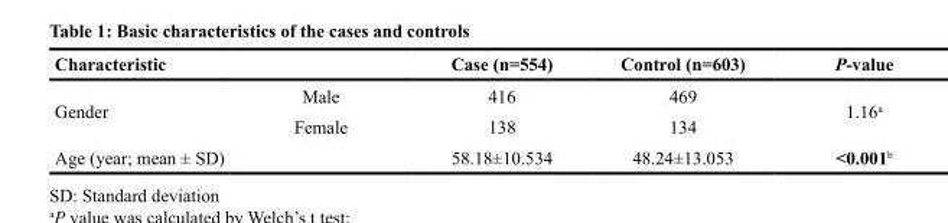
<table><thead><tr><td>Characteristic</td><td></td><td>Case (n=554)</td><td>Control (n=603)</td><td>P-value</td></tr></thead><tbody><tr><td rowspan="2">Gender</td><td>Male</td><td>416</td><td>469</td><td rowspan="2">1.16<sup>a</sup></td></tr><tr><td>Female</td><td>138</td><td>134</td></tr><tr><td>Age (year; mean ± SD)</td><td></td><td>58.18±10.534</td><td>48.24±13.053</td><td>&lt;0.001<sup>b</sup></td></tr></tbody></table>